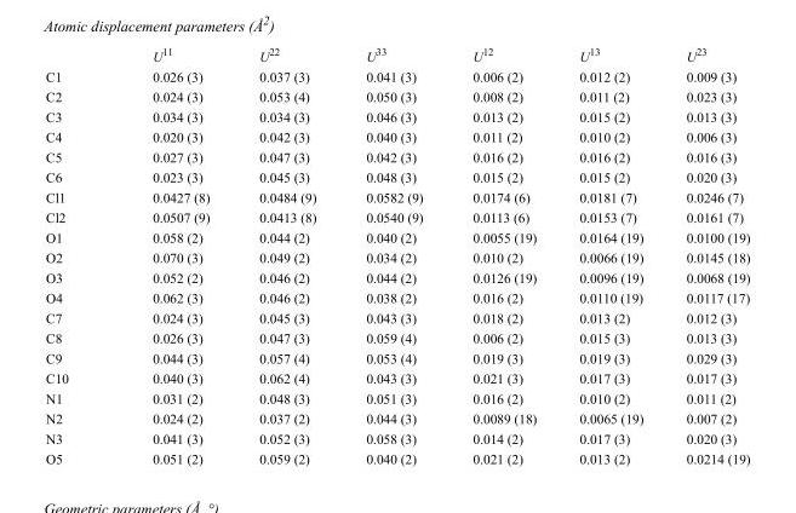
<table><thead><tr><td></td><td>U<sup>11</sup></td><td>U<sup>22</sup></td><td>U<sup>33</sup></td><td>U<sup>12</sup></td><td>U<sup>13</sup></td><td>U<sup>23</sup></td></tr></thead><tbody><tr><td>C1</td><td>0.026 (3)</td><td>0.037 (3)</td><td>0.041 (3)</td><td>0.006 (2)</td><td>0.012 (2)</td><td>0.009 (3)</td></tr><tr><td>C2</td><td>0.024 (3)</td><td>0.053 (4)</td><td>0.050 (3)</td><td>0.008 (2)</td><td>0.011 (2)</td><td>0.023 (3)</td></tr><tr><td>C3</td><td>0.034 (3)</td><td>0.034 (3)</td><td>0.046 (3)</td><td>0.013 (2)</td><td>0.015 (2)</td><td>0.013 (3)</td></tr><tr><td>C4</td><td>0.020 (3)</td><td>0.042 (3)</td><td>0.040 (3)</td><td>0.011 (2)</td><td>0.010 (2)</td><td>0.006 (3)</td></tr><tr><td>C5</td><td>0.027 (3)</td><td>0.047 (3)</td><td>0.042 (3)</td><td>0.016 (2)</td><td>0.016 (2)</td><td>0.016 (3)</td></tr><tr><td>C6</td><td>0.023 (3)</td><td>0.045 (3)</td><td>0.048 (3)</td><td>0.015 (2)</td><td>0.015 (2)</td><td>0.020 (3)</td></tr><tr><td>Cl1</td><td>0.0427 (8)</td><td>0.0484 (9)</td><td>0.0582 (9)</td><td>0.0174 (6)</td><td>0.0181 (7)</td><td>0.0246 (7)</td></tr><tr><td>Cl2</td><td>0.0507 (9)</td><td>0.0413 (8)</td><td>0.0540 (9)</td><td>0.0113 (6)</td><td>0.0153 (7)</td><td>0.0161 (7)</td></tr><tr><td>O1</td><td>0.058 (2)</td><td>0.044 (2)</td><td>0.040 (2)</td><td>0.0055 (19)</td><td>0.0164 (19)</td><td>0.0100 (19)</td></tr><tr><td>O2</td><td>0.070 (3)</td><td>0.049 (2)</td><td>0.034 (2)</td><td>0.010 (2)</td><td>0.0066 (19)</td><td>0.0145 (18)</td></tr><tr><td>O3</td><td>0.052 (2)</td><td>0.046 (2)</td><td>0.044 (2)</td><td>0.0126 (19)</td><td>0.0096 (19)</td><td>0.0068 (19)</td></tr><tr><td>O4</td><td>0.062 (3)</td><td>0.046 (2)</td><td>0.038 (2)</td><td>0.016 (2)</td><td>0.0110 (19)</td><td>0.0117 (17)</td></tr><tr><td>C7</td><td>0.024 (3)</td><td>0.045 (3)</td><td>0.043 (3)</td><td>0.018 (2)</td><td>0.013 (2)</td><td>0.012 (3)</td></tr><tr><td>C8</td><td>0.026 (3)</td><td>0.047 (3)</td><td>0.059 (4)</td><td>0.006 (2)</td><td>0.015 (3)</td><td>0.013 (3)</td></tr><tr><td>C9</td><td>0.044 (3)</td><td>0.057 (4)</td><td>0.053 (4)</td><td>0.019 (3)</td><td>0.019 (3)</td><td>0.029 (3)</td></tr><tr><td>C10</td><td>0.040 (3)</td><td>0.062 (4)</td><td>0.043 (3)</td><td>0.021 (3)</td><td>0.017 (3)</td><td>0.017 (3)</td></tr><tr><td>N1</td><td>0.031 (2)</td><td>0.048 (3)</td><td>0.051 (3)</td><td>0.016 (2)</td><td>0.010 (2)</td><td>0.011 (2)</td></tr><tr><td>N2</td><td>0.024 (2)</td><td>0.037 (2)</td><td>0.044 (3)</td><td>0.0089 (18)</td><td>0.0065 (19)</td><td>0.007 (2)</td></tr><tr><td>N3</td><td>0.041 (3)</td><td>0.052 (3)</td><td>0.058 (3)</td><td>0.014 (2)</td><td>0.017 (3)</td><td>0.020 (3)</td></tr><tr><td>O5</td><td>0.051 (2)</td><td>0.059 (2)</td><td>0.040 (2)</td><td>0.021 (2)</td><td>0.013 (2)</td><td>0.0214 (19)</td></tr></tbody></table>